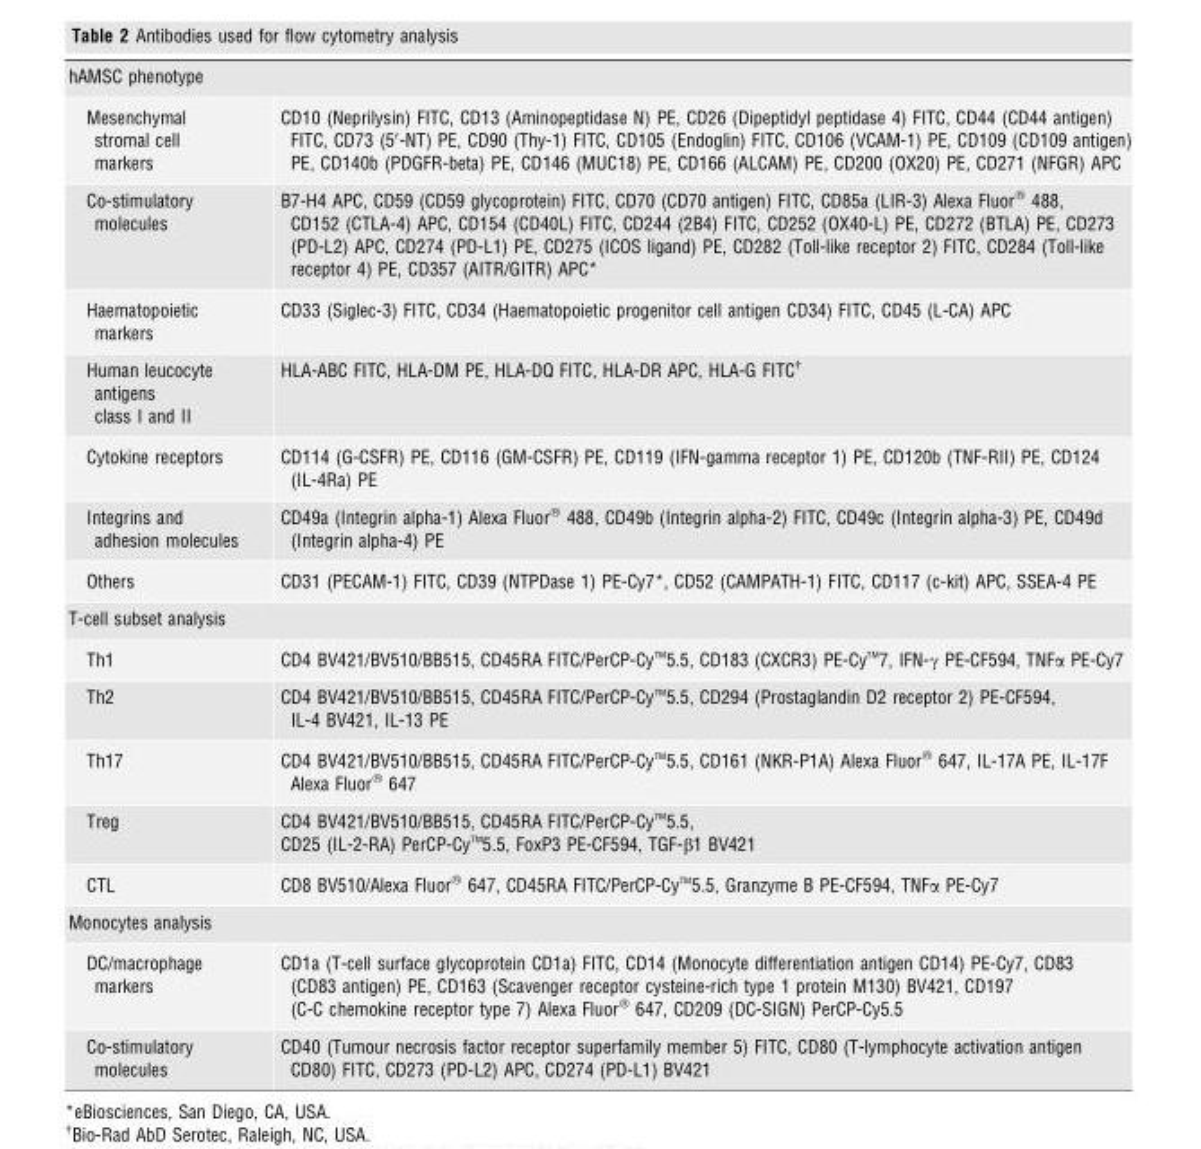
<table><tbody><tr><td colspan="2">hAMSC phenotype</td></tr><tr><td>Mesenchymal stromal cell markers</td><td>CD10 (Neprilysin) FITC, CD13 (Aminopeptidase N) PE, CD26 (Dipeptidyl peptidase 4) FITC, CD44 (CD44 antigen) FITC, CD73 (5′-NT) PE, CD90 (Thy-1) FITC, CD105 (Endoglin) FITC, CD106 (VCAM-1) PE, CD109 (CD109 antigen) PE, CD140b (PDGFR-beta) PE, CD146 (MUC18) PE, CD166 (ALCAM) PE, CD200 (OX20) PE, CD271 (NFGR) APC</td></tr><tr><td>Co-stimulatory molecules</td><td>B7-H4 APC, CD59 (CD59 glycoprotein) FITC, CD70 (CD70 antigen) FITC, CD85a (LIR-3) Alexa Fluor� 488, CD152 (CTLA-4) APC, CD154 (CD40L) FITC, CD244 (2B4) FITC, CD252 (OX40-L) PE, CD272 (BTLA) PE, CD273 (PD-L2) APC, CD274 (PD-L1) PE, CD275 (ICOS ligand) PE, CD282 (Toll-like receptor 2) FITC, CD284 (Toll-like receptor 4) PE, CD357 (AITR/GITR) APC*</td></tr><tr><td>Haematopoietic markers</td><td>CD33 (Siglec-3) FITC, CD34 (Haematopoietic progenitor cell antigen CD34) FITC, CD45 (L-CA) APC</td></tr><tr><td>Human leucocyte antigens class I and II</td><td>HLA-ABC FITC, HLA-DM PE, HLA-DQ FITC, HLA-DR APC, HLA-G FITC†</td></tr><tr><td>Cytokine receptors</td><td>CD114 (G-CSFR) PE, CD116 (GM-CSFR) PE, CD119 (IFN-gamma receptor 1) PE, CD120b (TNF-RII) PE, CD124 (IL-4Ra) PE</td></tr><tr><td>Integrins and adhesion molecules</td><td>CD49a (Integrin alpha-1) Alexa Fluor<sup>®</sup> 488, CD49b (Integrin alpha-2) FITC, CD49c (Integrin alpha-3) PE, CD49d (Integrin alpha-4) PE</td></tr><tr><td>Others</td><td>CD31 (PECAM-1) FITC, CD39 (NTPDase 1) PE-Cy7*, CD52 (CAMPATH-1) FITC, CD117 (c-kit) APC, SSEA-4 PE</td></tr><tr><td colspan="2">T-cell subset analysis</td></tr><tr><td>Th1</td><td>CD4 BV421/BV510/BB515, CD45RA FITC/PerCP-Cy TM5.5, CD183 (CXCR3) PE-Cy TM7, IFN-c PE-CF594, TNFa PE-Cy7</td></tr><tr><td>Th2</td><td>CD4 BV421/BV510/BB515, CD45RA FITC/PerCP-Cy <sup>TM</sup>5.5, CD294 (Prostaglandin D2 receptor 2) PE-CF594, IL-4 BV421, IL-13 PE</td></tr><tr><td>Th17</td><td>CD4 BV421/BV510/BB515, CD45RA FITC/PerCP-Cy TM5.5, CD161 (NKR-P1A) Alexa Fluor� 647, IL-17A PE, IL-17F Alexa Fluor� 647</td></tr><tr><td>Treg</td><td>CD4 BV421/BV510/BB515, CD45RA FITC/PerCP-Cy TM5.5, CD25 (IL-2-RA) PerCP-Cy TM5.5, FoxP3 PE-CF594, TGF-b1 BV421</td></tr><tr><td>CTL</td><td>CD8 BV510/Alexa Fluor� 647, CD45RA FITC/PerCP-Cy TM5.5, Granzyme B PE-CF594, TNFa PE-Cy7</td></tr><tr><td colspan="2">Monocytes analysis</td></tr><tr><td>DC/macrophage markers</td><td>CD1a (T-cell surface glycoprotein CD1a) FITC, CD14 (Monocyte differentiation antigen CD14) PE-Cy7, CD83 (CD83 antigen) PE, CD163 (Scavenger receptor cysteine-rich type 1 protein M130) BV421, CD197 (C-C chemokine receptor type 7) Alexa Fluor<sup>®</sup> 647, CD209 (DC-SIGN) PerCP-Cy5.5</td></tr><tr><td>Co-stimulatory molecules</td><td>CD40 (Tumour necrosis factor receptor superfamily member 5) FITC, CD80 (T-lymphocyte activation antigen CD80) FITC, CD273 (PD-L2) APC, CD274 (PD-L1) BV421</td></tr></tbody></table>